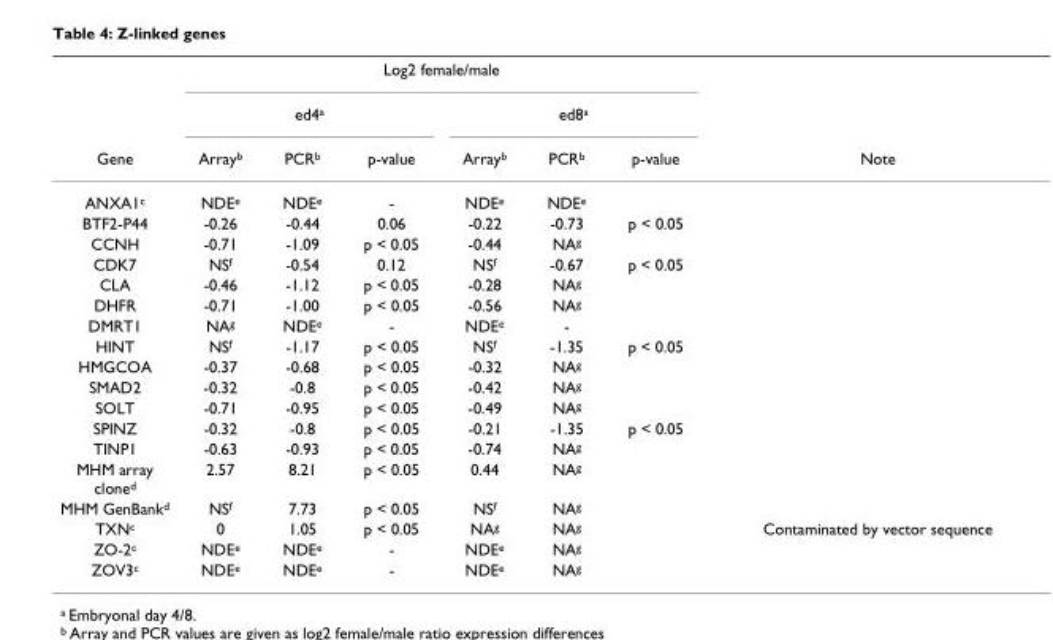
<table><thead><tr><td rowspan="3">Gene</td><td colspan="6">Log2 female/male</td><td rowspan="3">Note</td></tr><tr><td colspan="3">ed4a</td><td colspan="3">ed8a</td></tr><tr><td>Arrayb</td><td>PCRb</td><td>p-value</td><td>Arrayb</td><td>PCRb</td><td>p-value</td></tr></thead><tbody><tr><td>ANXA1c</td><td>NDEe</td><td>NDEe</td><td>-</td><td>NDEe</td><td>NDEe</td><td></td><td></td></tr><tr><td>BTF2-P44</td><td>-0.26</td><td>-0.44</td><td>0.06</td><td>-0.22</td><td>-0.73</td><td>p &lt; 0.05</td><td></td></tr><tr><td>CCNH</td><td>-0.71</td><td>-1.09</td><td>p &lt; 0.05</td><td>-0.44</td><td>NAg</td><td></td><td></td></tr><tr><td>CDK7</td><td>NSf</td><td>-0.54</td><td>0.12</td><td>NSf</td><td>-0.67</td><td>p &lt; 0.05</td><td></td></tr><tr><td>CLA</td><td>-0.46</td><td>-1.12</td><td>p &lt; 0.05</td><td>-0.28</td><td>NAg</td><td></td><td></td></tr><tr><td>DHFR</td><td>-0.71</td><td>-1.00</td><td>p &lt; 0.05</td><td>-0.56</td><td>NAg</td><td></td><td></td></tr><tr><td>DMRT1</td><td>NAg</td><td>NDEe</td><td>-</td><td>NDEe</td><td>-</td><td></td><td></td></tr><tr><td>HINT</td><td>NSf</td><td>-1.17</td><td>p &lt; 0.05</td><td>NSf</td><td>-1.35</td><td>p &lt; 0.05</td><td></td></tr><tr><td>HMGCOA</td><td>-0.37</td><td>-0.68</td><td>p &lt; 0.05</td><td>-0.32</td><td>NAg</td><td></td><td></td></tr><tr><td>SMAD2</td><td>-0.32</td><td>-0.8</td><td>p &lt; 0.05</td><td>-0.42</td><td>NAg</td><td></td><td></td></tr><tr><td>SOLT</td><td>-0.71</td><td>-0.95</td><td>p &lt; 0.05</td><td>-0.49</td><td>NAg</td><td></td><td></td></tr><tr><td>SPINZ</td><td>-0.32</td><td>-0.8</td><td>p &lt; 0.05</td><td>-0.21</td><td>-1.35</td><td>p &lt; 0.05</td><td></td></tr><tr><td>TINP1</td><td>-0.63</td><td>-0.93</td><td>p &lt; 0.05</td><td>-0.74</td><td>NAg</td><td></td><td></td></tr><tr><td>MHM array cloned</td><td>2.57</td><td>8.21</td><td>p &lt; 0.05</td><td>0.44</td><td>NAg</td><td></td><td></td></tr><tr><td>MHM GenBankd</td><td>NSf</td><td>7.73</td><td>p &lt; 0.05</td><td>NSf</td><td>NAg</td><td></td><td></td></tr><tr><td>TXNc</td><td>0</td><td>1.05</td><td>p &lt; 0.05</td><td>NAg</td><td>NAg</td><td></td><td>Contaminated by vector sequence</td></tr><tr><td>ZO-2c</td><td>NDEe</td><td>NDEe</td><td>-</td><td>NDEe</td><td>NAg</td><td></td><td></td></tr><tr><td>ZOV3c</td><td>NDEe</td><td>NDEe</td><td>-</td><td>NDEe</td><td>NAg</td><td></td><td></td></tr></tbody></table>